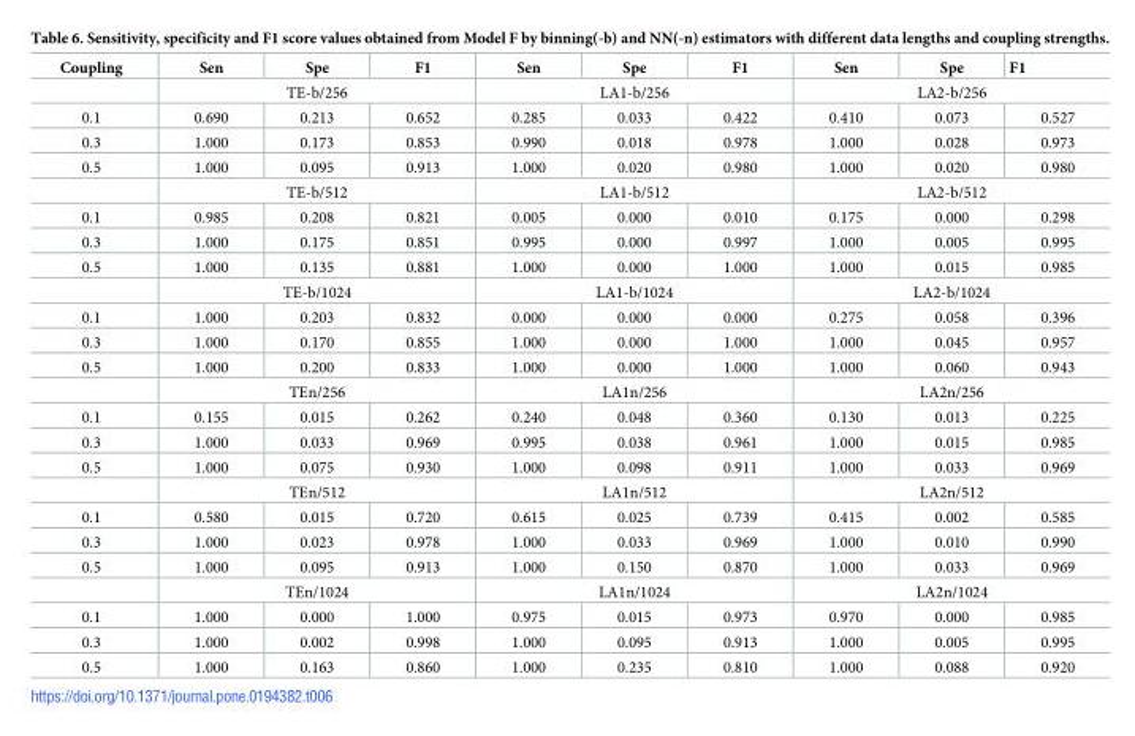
<table><thead><tr><td>Coupling</td><td>Sen</td><td>Spe</td><td>F1</td><td>Sen</td><td>Spe</td><td>F1</td><td>Sen</td><td>Spe</td><td>F1</td></tr></thead><tbody><tr><td></td><td colspan="3">TE-b/256</td><td colspan="3">LA1-b/256</td><td colspan="3">LA2-b/256</td></tr><tr><td>0.1</td><td>0.690</td><td>0.213</td><td>0.652</td><td>0.285</td><td>0.033</td><td>0.422</td><td>0.410</td><td>0.073</td><td>0.527</td></tr><tr><td>0.3</td><td>1.000</td><td>0.173</td><td>0.853</td><td>0.990</td><td>0.018</td><td>0.978</td><td>1.000</td><td>0.028</td><td>0.973</td></tr><tr><td rowspan="2">0.5</td><td>1.000</td><td>0.095</td><td>0.913</td><td>1.000</td><td>0.020</td><td>0.980</td><td>1.000</td><td>0.020</td><td>0.980</td></tr><tr><td colspan="3">TE-b/512</td><td colspan="3">LA1-b/512</td><td colspan="3">LA2-b/512</td></tr><tr><td>0.1</td><td>0.985</td><td>0.208</td><td>0.821</td><td>0.005</td><td>0.000</td><td>0.010</td><td>0.175</td><td>0.000</td><td>0.298</td></tr><tr><td>0.3</td><td>1.000</td><td>0.175</td><td>0.851</td><td>0.995</td><td>0.000</td><td>0.997</td><td>1.000</td><td>0.005</td><td>0.995</td></tr><tr><td rowspan="2">0.5</td><td>1.000</td><td>0.135</td><td>0.881</td><td>1.000</td><td>0.000</td><td>1.000</td><td>1.000</td><td>0.015</td><td>0.985</td></tr><tr><td colspan="3">TE-b/1024</td><td colspan="3">LA1-b/1024</td><td colspan="3">LA2-b/1024</td></tr><tr><td>0.1</td><td>1.000</td><td>0.203</td><td>0.832</td><td>0.000</td><td>0.000</td><td>0.000</td><td>0.275</td><td>0.058</td><td>0.396</td></tr><tr><td>0.3</td><td>1.000</td><td>0.170</td><td>0.855</td><td>1.000</td><td>0.000</td><td>1.000</td><td>1.000</td><td>0.045</td><td>0.957</td></tr><tr><td rowspan="2">0.5</td><td>1.000</td><td>0.200</td><td>0.833</td><td>1.000</td><td>0.000</td><td>1.000</td><td>1.000</td><td>0.060</td><td>0.943</td></tr><tr><td colspan="3">TEn/256</td><td colspan="3">LA1n/256</td><td colspan="3">LA2n/256</td></tr><tr><td>0.1</td><td>0.155</td><td>0.015</td><td>0.262</td><td>0.240</td><td>0.048</td><td>0.360</td><td>0.130</td><td>0.013</td><td>0.225</td></tr><tr><td>0.3</td><td>1.000</td><td>0.033</td><td>0.969</td><td>0.995</td><td>0.038</td><td>0.961</td><td>1.000</td><td>0.015</td><td>0.985</td></tr><tr><td rowspan="2">0.5</td><td>1.000</td><td>0.075</td><td>0.930</td><td>1.000</td><td>0.098</td><td>0.911</td><td>1.000</td><td>0.033</td><td>0.969</td></tr><tr><td colspan="3">TEn/512</td><td colspan="3">LA1n/512</td><td colspan="3">LA2n/512</td></tr><tr><td>0.1</td><td>0.580</td><td>0.015</td><td>0.720</td><td>0.615</td><td>0.025</td><td>0.739</td><td>0.415</td><td>0.002</td><td>0.585</td></tr><tr><td>0.3</td><td>1.000</td><td>0.023</td><td>0.978</td><td>1.000</td><td>0.033</td><td>0.969</td><td>1.000</td><td>0.010</td><td>0.990</td></tr><tr><td rowspan="2">0.5</td><td>1.000</td><td>0.095</td><td>0.913</td><td>1.000</td><td>0.150</td><td>0.870</td><td>1.000</td><td>0.033</td><td>0.969</td></tr><tr><td colspan="3">TEn/1024</td><td colspan="3">LA1n/1024</td><td colspan="3">LA2n/1024</td></tr><tr><td>0.1</td><td>1.000</td><td>0.000</td><td>1.000</td><td>0.975</td><td>0.015</td><td>0.973</td><td>0.970</td><td>0.000</td><td>0.985</td></tr><tr><td>0.3</td><td>1.000</td><td>0.002</td><td>0.998</td><td>1.000</td><td>0.095</td><td>0.913</td><td>1.000</td><td>0.005</td><td>0.995</td></tr><tr><td>0.5</td><td>1.000</td><td>0.163</td><td>0.860</td><td>1.000</td><td>0.235</td><td>0.810</td><td>1.000</td><td>0.088</td><td>0.920</td></tr></tbody></table>